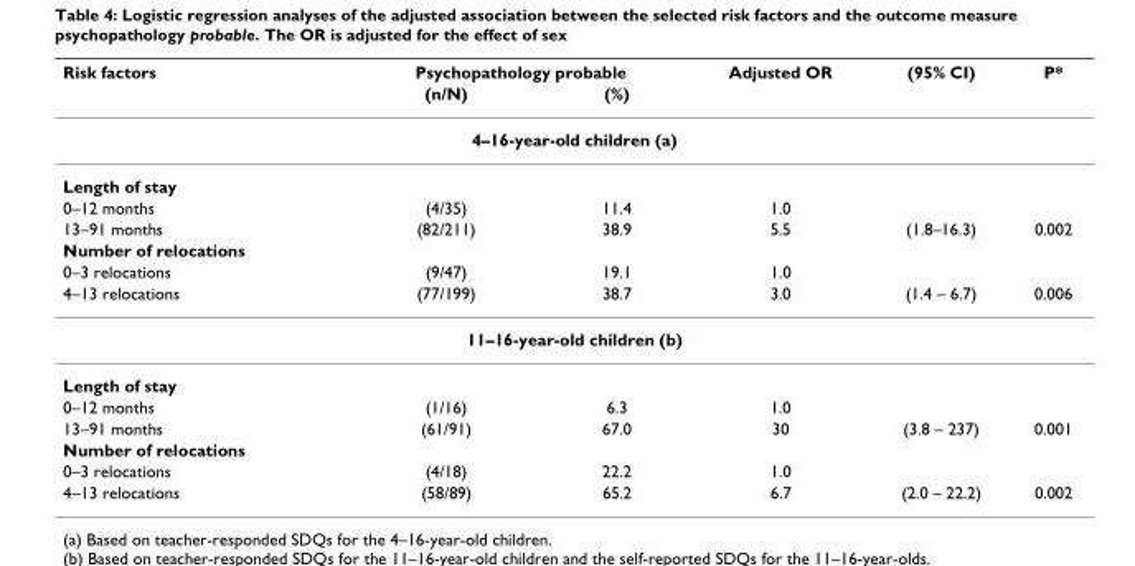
<table><thead><tr><td rowspan="2">Risk factors</td><td colspan="2">Psychopathology probable</td><td rowspan="2">Adjusted OR</td><td rowspan="2">(95% CI)</td><td rowspan="2">P*</td></tr><tr><td>(n/N)</td><td>(%)</td></tr></thead><tbody><tr><td colspan="6">4–16-year-old children (a)</td></tr><tr><td colspan="6">Length of stay</td></tr><tr><td>0–12 months</td><td>(4/35)</td><td>11.4</td><td>1.0</td><td></td><td></td></tr><tr><td>13–91 months</td><td>(82/211)</td><td>38.9</td><td>5.5</td><td>(1.8–16.3)</td><td>0.002</td></tr><tr><td colspan="6">Number of relocations</td></tr><tr><td>0–3 relocations</td><td>(9/47)</td><td>19.1</td><td>1.0</td><td></td><td></td></tr><tr><td>4–13 relocations</td><td>(77/199)</td><td>38.7</td><td>3.0</td><td>(1.4 – 6.7)</td><td>0.006</td></tr><tr><td colspan="6">11–16-year-old children (b)</td></tr><tr><td colspan="6">Length of stay</td></tr><tr><td>0–12 months</td><td>(1/16)</td><td>6.3</td><td>1.0</td><td></td><td></td></tr><tr><td>13–91 months</td><td>(61/91)</td><td>67.0</td><td>30</td><td>(3.8 – 237)</td><td>0.001</td></tr><tr><td colspan="6">Number of relocations</td></tr><tr><td>0–3 relocations</td><td>(4/18)</td><td>22.2</td><td>1.0</td><td></td><td></td></tr><tr><td>4–13 relocations</td><td>(58/89)</td><td>65.2</td><td>6.7</td><td>(2.0 – 22.2)</td><td>0.002</td></tr></tbody></table>